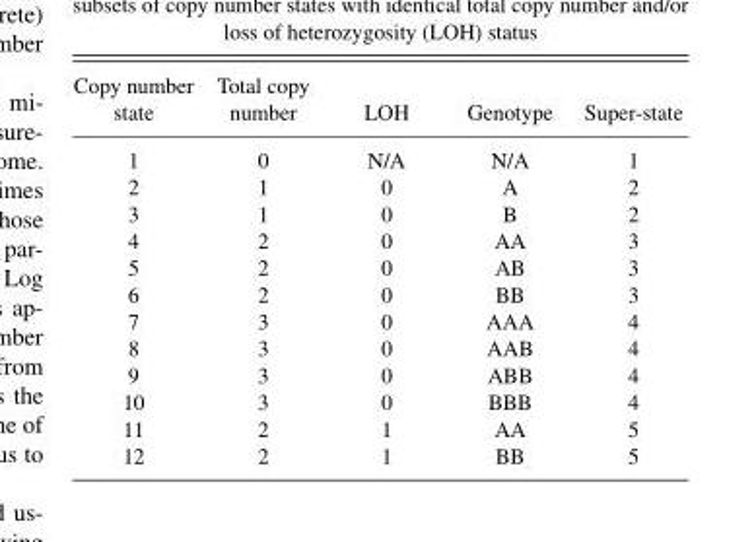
<table><thead><tr><td>Copy number state</td><td>Total copy number</td><td>LOH</td><td>Genotype</td><td>Super-state</td></tr></thead><tbody><tr><td>1</td><td>0</td><td>N/A</td><td>N/A</td><td>1</td></tr><tr><td>2</td><td>1</td><td>0</td><td>A</td><td>2</td></tr><tr><td>3</td><td>1</td><td>0</td><td>B</td><td>2</td></tr><tr><td>4</td><td>2</td><td>0</td><td>AA</td><td>3</td></tr><tr><td>5</td><td>2</td><td>0</td><td>AB</td><td>3</td></tr><tr><td>6</td><td>2</td><td>0</td><td>BB</td><td>3</td></tr><tr><td>7</td><td>3</td><td>0</td><td>AAA</td><td>4</td></tr><tr><td>8</td><td>3</td><td>0</td><td>AAB</td><td>4</td></tr><tr><td>9</td><td>3</td><td>0</td><td>ABB</td><td>4</td></tr><tr><td>10</td><td>3</td><td>0</td><td>BBB</td><td>4</td></tr><tr><td>11</td><td>2</td><td>1</td><td>AA</td><td>5</td></tr><tr><td>12</td><td>2</td><td>1</td><td>BB</td><td>5</td></tr></tbody></table>